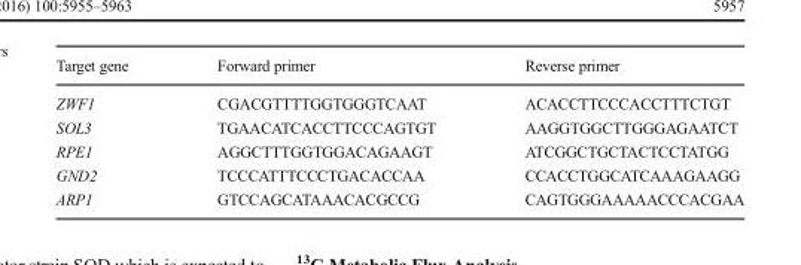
<table><thead><tr><td>Target gene</td><td>Forward primer</td><td>Reverse primer</td></tr></thead><tbody><tr><td>ZWF1</td><td>CGACGTTTTGGTGGGTCAAT</td><td>ACACCTTCCCACCTTTCTGT</td></tr><tr><td>SOL3</td><td>TGAACATCACCTTCCCAGTGT</td><td>AAGGTGGCTTGGGAGAATCT</td></tr><tr><td>RPE1</td><td>AGGCTTTGGTGGACAGAAGT</td><td>ATCGGCTGCTACTCCTATGG</td></tr><tr><td>GND2</td><td>TCCCATTTCCCTGACACCAA</td><td>CCACCTGGCATCAAAGAAGG</td></tr><tr><td>ARP1</td><td>GTCCAGCATAAACACGCCG</td><td>CAGTGGGAAAAACCCACGAA</td></tr></tbody></table>